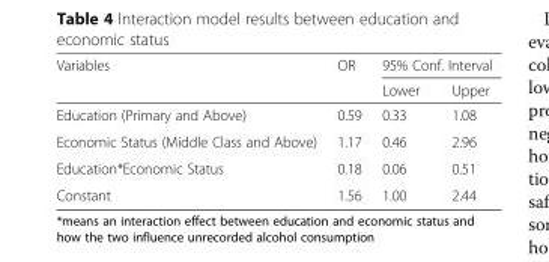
<table><thead><tr><td rowspan="2">Variables</td><td rowspan="2">OR</td><td colspan="2">95% Conf. Interval</td></tr><tr><td>Lower</td><td>Upper</td></tr></thead><tbody><tr><td>Education (Primary and Above)</td><td>0.59</td><td>0.33</td><td>1.08</td></tr><tr><td>Economic Status (Middle Class and Above)</td><td>1.17</td><td>0.46</td><td>2.96</td></tr><tr><td>Education*Economic Status</td><td>0.18</td><td>0.06</td><td>0.51</td></tr><tr><td>Constant</td><td>1.56</td><td>1.00</td><td>2.44</td></tr></tbody></table>